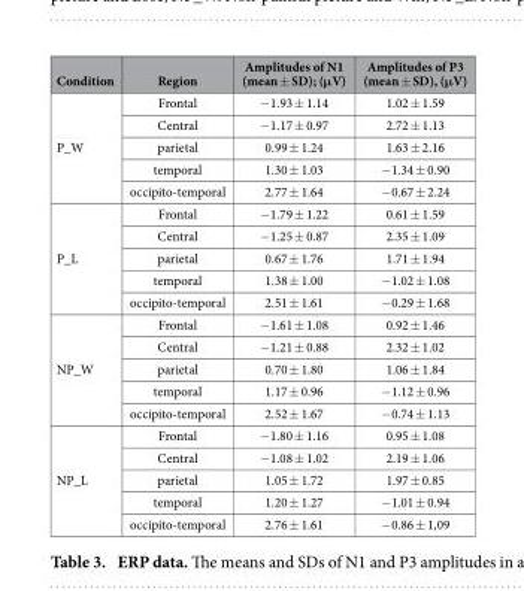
<table><thead><tr><td>Condition</td><td>Region</td><td>Amplitudes of N1 (mean ± SD); (μV)</td><td>Amplitudes of P3 (mean ± SD), (μV)</td></tr></thead><tbody><tr><td rowspan="5">P_W</td><td>Frontal</td><td>− 1.93 ± 1.14</td><td>1.02 ± 1.59</td></tr><tr><td>Central</td><td>− 1.17 ± 0.97</td><td>2.72 ± 1.13</td></tr><tr><td>parietal</td><td>0.99 ± 1.24</td><td>1.63 ± 2.16</td></tr><tr><td>temporal</td><td>1.30 ± 1.03</td><td>− 1.34 ± 0.90</td></tr><tr><td>occipito-temporal</td><td>2.77 ± 1.64</td><td>− 0.67 ± 2.24</td></tr><tr><td rowspan="5">P_L</td><td>Frontal</td><td>− 1.79 ± 1.22</td><td>0.61 ± 1.59</td></tr><tr><td>Central</td><td>− 1.25 ± 0.87</td><td>2.35 ± 1.09</td></tr><tr><td>parietal</td><td>0.67 ± 1.76</td><td>1.71 ± 1.94</td></tr><tr><td>temporal</td><td>1.38 ± 1.00</td><td>− 1.02 ± 1.08</td></tr><tr><td>occipito-temporal</td><td>2.51 ± 1.61</td><td>− 0.29 ± 1.68</td></tr><tr><td rowspan="5">NP_W</td><td>Frontal</td><td>− 1.61 ± 1.08</td><td>0.92 ± 1.46</td></tr><tr><td>Central</td><td>− 1.21 ± 0.88</td><td>2.32 ± 1.02</td></tr><tr><td>parietal</td><td>0.70 ± 1.80</td><td>1.06 ± 1.84</td></tr><tr><td>temporal</td><td>1.17 ± 0.96</td><td>− 1.12 ± 0.96</td></tr><tr><td>occipito-temporal</td><td>2.52 ± 1.67</td><td>− 0.74 ± 1.13</td></tr><tr><td rowspan="5">NP_L</td><td>Frontal</td><td>− 1.80 ± 1.16</td><td>0.95 ± 1.08</td></tr><tr><td>Central</td><td>− 1.08 ± 1.02</td><td>2.19 ± 1.06</td></tr><tr><td>parietal</td><td>1.05 ± 1.72</td><td>1.97 ± 0.85</td></tr><tr><td>temporal</td><td>1.20 ± 1.27</td><td>− 1.01 ± 0.94</td></tr><tr><td>occipito-temporal</td><td>2.76 ± 1.61</td><td>− 0.86 ± 1,09</td></tr></tbody></table>